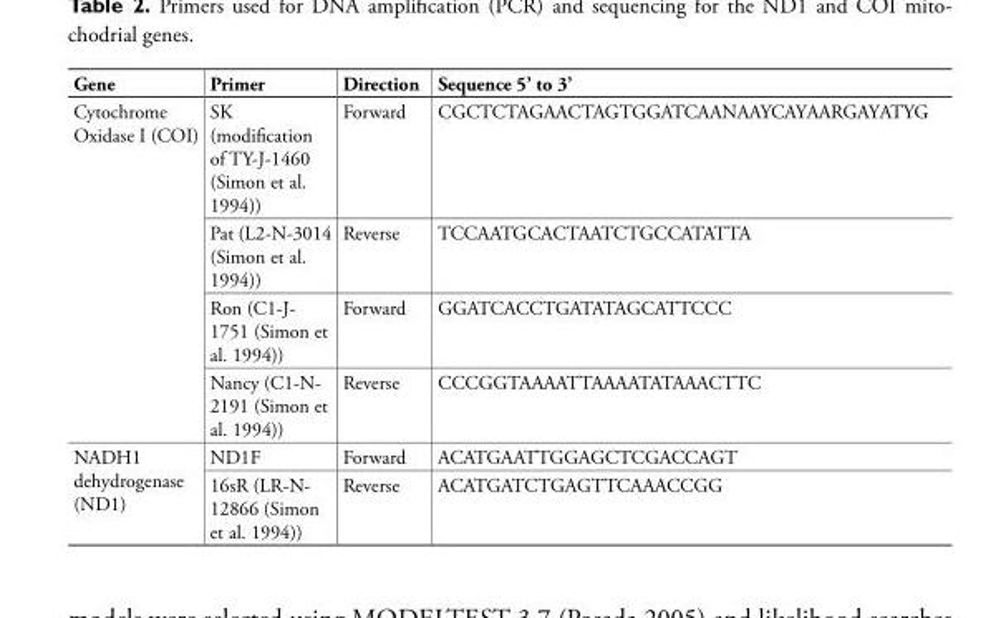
<table><thead><tr><td>Gene</td><td>Primer</td><td>Direction</td><td>Sequence 5’ to 3’</td></tr></thead><tbody><tr><td rowspan="4">Cytochrome Oxidase I (COI)</td><td>SK (modification of TY-J-1460 (Simon et al. 1994))</td><td>Forward</td><td>CGCTCTAGAACTAGTGGATCAANAAYCAYAARGAYATYG</td></tr><tr><td>Pat (L2-N-3014 (Simon et al. 1994))</td><td>Reverse</td><td>TCCAATGCACTAATCTGCCATATTA</td></tr><tr><td>Ron (C1-J- 1751 (Simon et al. 1994))</td><td>Forward</td><td>GGATCACCTGATATAGCATTCCC</td></tr><tr><td>Nancy (C1-N- 2191 (Simon et al. 1994))</td><td>Reverse</td><td>CCCGGTAAAATTAAAATATAAACTTC</td></tr><tr><td rowspan="2">NADH1 dehydrogenase (ND1)</td><td>ND1F</td><td>Forward</td><td>ACATGAATTGGAGCTCGACCAGT</td></tr><tr><td>16sR (LR-N- 12866 (Simon et al. 1994))</td><td>Reverse</td><td>ACATGATCTGAGTTCAAACCGG</td></tr></tbody></table>